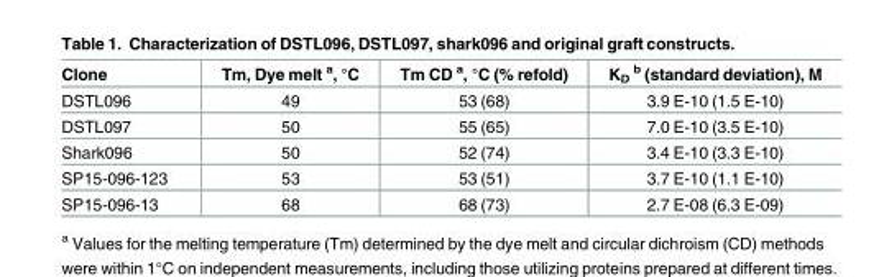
<table><thead><tr><td>Clone</td><td>Tm, Dye melt <sup>a</sup>, °C</td><td>Tm CD <sup>a</sup>, °C (% refold)</td><td>K<sub>D</sub> <sup>b</sup> (standard deviation), M</td></tr></thead><tbody><tr><td>DSTL096</td><td>49</td><td>53 (68)</td><td>3.9 E-10 (1.5 E-10)</td></tr><tr><td>DSTL097</td><td>50</td><td>55 (65)</td><td>7.0 E-10 (3.5 E-10)</td></tr><tr><td>Shark096</td><td>50</td><td>52 (74)</td><td>3.4 E-10 (3.3 E-10)</td></tr><tr><td>SP15-096-123</td><td>53</td><td>53 (51)</td><td>3.7 E-10 (1.1 E-10)</td></tr><tr><td>SP15-096-13</td><td>68</td><td>68 (73)</td><td>2.7 E-08 (6.3 E-09)</td></tr></tbody></table>